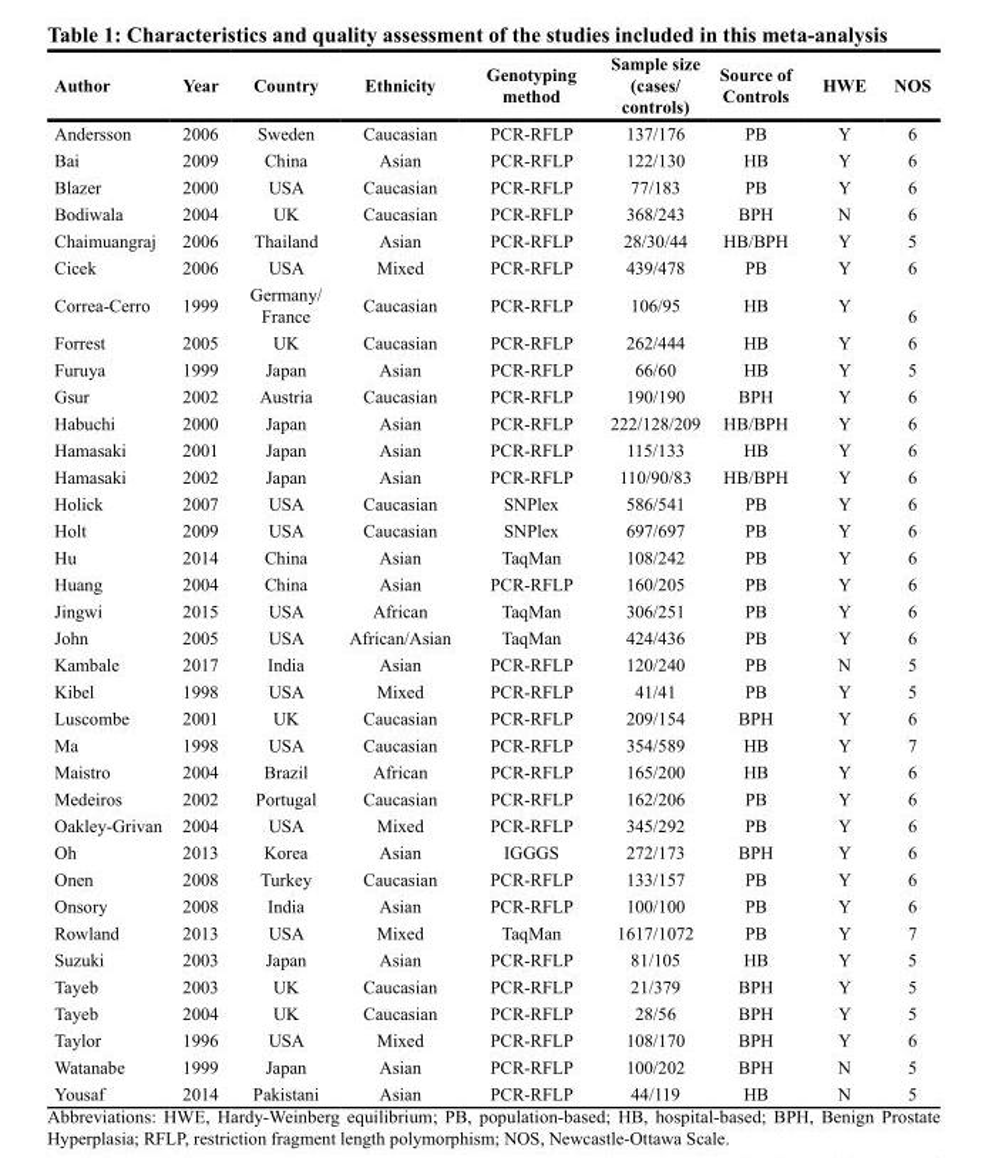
<table><thead><tr><td>Author</td><td>Year</td><td>Country</td><td>Ethnicity</td><td>Genotyping method</td><td>Sample size (cases/ controls)</td><td>Source of Controls</td><td>HWE</td><td>NOS</td></tr></thead><tbody><tr><td>Andersson</td><td>2006</td><td>Sweden</td><td>Caucasian</td><td>PCR-RFLP</td><td>137/176</td><td>PB</td><td>Y</td><td>6</td></tr><tr><td>Bai</td><td>2009</td><td>China</td><td>Asian</td><td>PCR-RFLP</td><td>122/130</td><td>HB</td><td>Y</td><td>6</td></tr><tr><td>Blazer</td><td>2000</td><td>USA</td><td>Caucasian</td><td>PCR-RFLP</td><td>77/183</td><td>PB</td><td>Y</td><td>6</td></tr><tr><td>Bodiwala</td><td>2004</td><td>UK</td><td>Caucasian</td><td>PCR-RFLP</td><td>368/243</td><td>BPH</td><td>N</td><td>6</td></tr><tr><td>Chaimuangraj</td><td>2006</td><td>Thailand</td><td>Asian</td><td>PCR-RFLP</td><td>28/30/44</td><td>HB/BPH</td><td>Y</td><td>5</td></tr><tr><td>Cicek</td><td>2006</td><td>USA</td><td>Mixed</td><td>PCR-RFLP</td><td>439/478</td><td>PB</td><td>Y</td><td>6</td></tr><tr><td>Correa-Cerro</td><td>1999</td><td>Germany/ France</td><td>Caucasian</td><td>PCR-RFLP</td><td>106/95</td><td>HB</td><td>Y</td><td>6</td></tr><tr><td>Forrest</td><td>2005</td><td>UK</td><td>Caucasian</td><td>PCR-RFLP</td><td>262/444</td><td>HB</td><td>Y</td><td>6</td></tr><tr><td>Furuya</td><td>1999</td><td>Japan</td><td>Asian</td><td>PCR-RFLP</td><td>66/60</td><td>HB</td><td>Y</td><td>5</td></tr><tr><td>Gsur</td><td>2002</td><td>Austria</td><td>Caucasian</td><td>PCR-RFLP</td><td>190/190</td><td>BPH</td><td>Y</td><td>6</td></tr><tr><td>Habuchi</td><td>2000</td><td>Japan</td><td>Asian</td><td>PCR-RFLP</td><td>222/128/209</td><td>HB/BPH</td><td>Y</td><td>6</td></tr><tr><td>Hamasaki</td><td>2001</td><td>Japan</td><td>Asian</td><td>PCR-RFLP</td><td>115/133</td><td>HB</td><td>Y</td><td>6</td></tr><tr><td>Hamasaki</td><td>2002</td><td>Japan</td><td>Asian</td><td>PCR-RFLP</td><td>110/90/83</td><td>HB/BPH</td><td>Y</td><td>6</td></tr><tr><td>Holick</td><td>2007</td><td>USA</td><td>Caucasian</td><td>SNPlex</td><td>586/541</td><td>PB</td><td>Y</td><td>6</td></tr><tr><td>Holt</td><td>2009</td><td>USA</td><td>Caucasian</td><td>SNPlex</td><td>697/697</td><td>PB</td><td>Y</td><td>6</td></tr><tr><td>Hu</td><td>2014</td><td>China</td><td>Asian</td><td>TaqMan</td><td>108/242</td><td>PB</td><td>Y</td><td>6</td></tr><tr><td>Huang</td><td>2004</td><td>China</td><td>Asian</td><td>PCR-RFLP</td><td>160/205</td><td>PB</td><td>Y</td><td>6</td></tr><tr><td>Jingwi</td><td>2015</td><td>USA</td><td>African</td><td>TaqMan</td><td>306/251</td><td>PB</td><td>Y</td><td>6</td></tr><tr><td>John</td><td>2005</td><td>USA</td><td>African/Asian</td><td>TaqMan</td><td>424/436</td><td>PB</td><td>Y</td><td>6</td></tr><tr><td>Kambale</td><td>2017</td><td>India</td><td>Asian</td><td>PCR-RFLP</td><td>120/240</td><td>PB</td><td>N</td><td>5</td></tr><tr><td>Kibel</td><td>1998</td><td>USA</td><td>Mixed</td><td>PCR-RFLP</td><td>41/41</td><td>PB</td><td>Y</td><td>5</td></tr><tr><td>Luscombe</td><td>2001</td><td>UK</td><td>Caucasian</td><td>PCR-RFLP</td><td>209/154</td><td>BPH</td><td>Y</td><td>6</td></tr><tr><td>Ma</td><td>1998</td><td>USA</td><td>Caucasian</td><td>PCR-RFLP</td><td>354/589</td><td>HB</td><td>Y</td><td>7</td></tr><tr><td>Maistro</td><td>2004</td><td>Brazil</td><td>African</td><td>PCR-RFLP</td><td>165/200</td><td>HB</td><td>Y</td><td>6</td></tr><tr><td>Medeiros</td><td>2002</td><td>Portugal</td><td>Caucasian</td><td>PCR-RFLP</td><td>162/206</td><td>PB</td><td>Y</td><td>6</td></tr><tr><td>Oakley-Grivan</td><td>2004</td><td>USA</td><td>Mixed</td><td>PCR-RFLP</td><td>345/292</td><td>PB</td><td>Y</td><td>6</td></tr><tr><td>Oh</td><td>2013</td><td>Korea</td><td>Asian</td><td>IGGGS</td><td>272/173</td><td>BPH</td><td>Y</td><td>6</td></tr><tr><td>Onen</td><td>2008</td><td>Turkey</td><td>Caucasian</td><td>PCR-RFLP</td><td>133/157</td><td>PB</td><td>Y</td><td>6</td></tr><tr><td>Onsory</td><td>2008</td><td>India</td><td>Asian</td><td>PCR-RFLP</td><td>100/100</td><td>PB</td><td>Y</td><td>6</td></tr><tr><td>Rowland</td><td>2013</td><td>USA</td><td>Mixed</td><td>TaqMan</td><td>1617/1072</td><td>PB</td><td>Y</td><td>7</td></tr><tr><td>Suzuki</td><td>2003</td><td>Japan</td><td>Asian</td><td>PCR-RFLP</td><td>81/105</td><td>HB</td><td>Y</td><td>5</td></tr><tr><td>Tayeb</td><td>2003</td><td>UK</td><td>Caucasian</td><td>PCR-RFLP</td><td>21/379</td><td>BPH</td><td>Y</td><td>5</td></tr><tr><td>Tayeb</td><td>2004</td><td>UK</td><td>Caucasian</td><td>PCR-RFLP</td><td>28/56</td><td>BPH</td><td>Y</td><td>5</td></tr><tr><td>Taylor</td><td>1996</td><td>USA</td><td>Mixed</td><td>PCR-RFLP</td><td>108/170</td><td>BPH</td><td>Y</td><td>6</td></tr><tr><td>Watanabe</td><td>1999</td><td>Japan</td><td>Asian</td><td>PCR-RFLP</td><td>100/202</td><td>BPH</td><td>N</td><td>5</td></tr><tr><td>Yousaf</td><td>2014</td><td>Pakistani</td><td>Asian</td><td>PCR-RFLP</td><td>44/119</td><td>HB</td><td>N</td><td>5</td></tr></tbody></table>